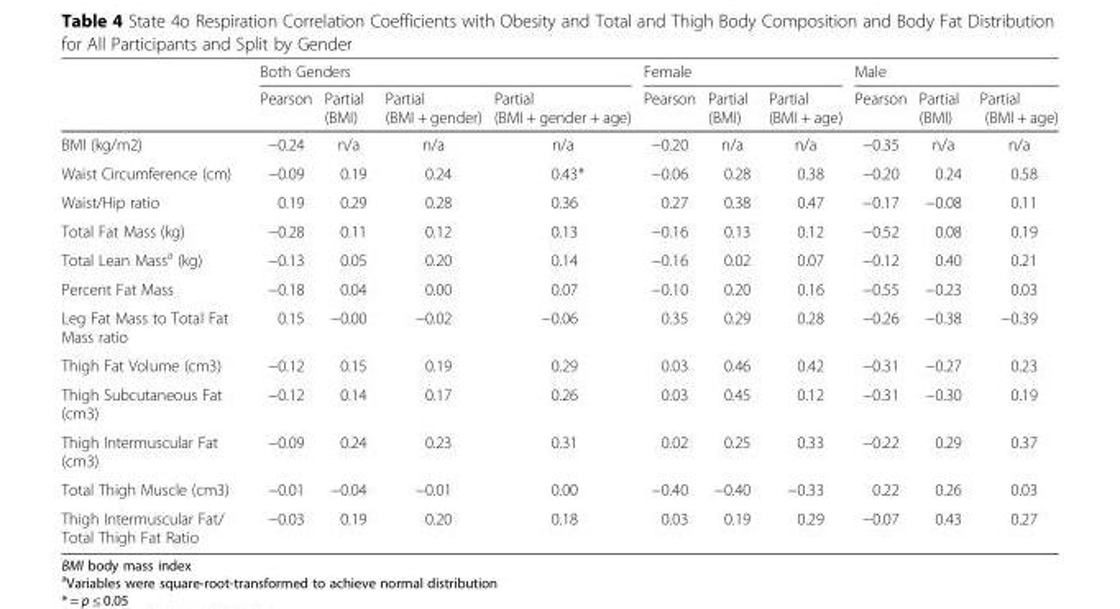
<table><thead><tr><td rowspan="2"></td><td colspan="4">Both Genders</td><td colspan="3">Female</td><td colspan="3">Male</td></tr><tr><td>Pearson</td><td>Partial (BMI)</td><td>Partial (BMI + gender)</td><td>Partial (BMI + gender + age)</td><td>Pearson</td><td>Partial (BMI)</td><td>Partial (BMI + age)</td><td>Pearson</td><td>Partial (BMI)</td><td>Partial (BMI + age)</td></tr></thead><tbody><tr><td>BMI (kg/m2)</td><td>−0.24</td><td>n/a</td><td>n/a</td><td>n/a</td><td>−0.20</td><td>n/a</td><td>n/a</td><td>−0.35</td><td>n/a</td><td>n/a</td></tr><tr><td>Waist Circumference (cm)</td><td>−0.09</td><td>0.19</td><td>0.24</td><td>0.43*</td><td>−0.06</td><td>0.28</td><td>0.38</td><td>−0.20</td><td>0.24</td><td>0.58</td></tr><tr><td>Waist/Hip ratio</td><td>0.19</td><td>0.29</td><td>0.28</td><td>0.36</td><td>0.27</td><td>0.38</td><td>0.47</td><td>−0.17</td><td>−0.08</td><td>0.11</td></tr><tr><td>Total Fat Mass (kg)</td><td>−0.28</td><td>0.11</td><td>0.12</td><td>0.13</td><td>−0.16</td><td>0.13</td><td>0.12</td><td>−0.52</td><td>0.08</td><td>0.19</td></tr><tr><td>Total Lean Mass<sup>a</sup> (kg)</td><td>−0.13</td><td>0.05</td><td>0.20</td><td>0.14</td><td>−0.16</td><td>0.02</td><td>0.07</td><td>−0.12</td><td>0.40</td><td>0.21</td></tr><tr><td>Percent Fat Mass</td><td>−0.18</td><td>0.04</td><td>0.00</td><td>0.07</td><td>−0.10</td><td>0.20</td><td>0.16</td><td>−0.55</td><td>−0.23</td><td>0.03</td></tr><tr><td>Leg Fat Mass to Total Fat Mass ratio</td><td>0.15</td><td>−0.00</td><td>−0.02</td><td>−0.06</td><td>0.35</td><td>0.29</td><td>0.28</td><td>−0.26</td><td>−0.38</td><td>−0.39</td></tr><tr><td>Thigh Fat Volume (cm3)</td><td>−0.12</td><td>0.15</td><td>0.19</td><td>0.29</td><td>0.03</td><td>0.46</td><td>0.42</td><td>−0.31</td><td>−0.27</td><td>0.23</td></tr><tr><td>Thigh Subcutaneous Fat (cm3)</td><td>−0.12</td><td>0.14</td><td>0.17</td><td>0.26</td><td>0.03</td><td>0.45</td><td>0.12</td><td>−0.31</td><td>−0.30</td><td>0.19</td></tr><tr><td>Thigh Intermuscular Fat (cm3)</td><td>−0.09</td><td>0.24</td><td>0.23</td><td>0.31</td><td>0.02</td><td>0.25</td><td>0.33</td><td>−0.22</td><td>0.29</td><td>0.37</td></tr><tr><td>Total Thigh Muscle (cm3)</td><td>−0.01</td><td>−0.04</td><td>−0.01</td><td>0.00</td><td>−0.40</td><td>−0.40</td><td>−0.33</td><td>0.22</td><td>0.26</td><td>0.03</td></tr><tr><td>Thigh Intermuscular Fat/ Total Thigh Fat Ratio</td><td>−0.03</td><td>0.19</td><td>0.20</td><td>0.18</td><td>0.03</td><td>0.19</td><td>0.29</td><td>−0.07</td><td>0.43</td><td>0.27</td></tr></tbody></table>